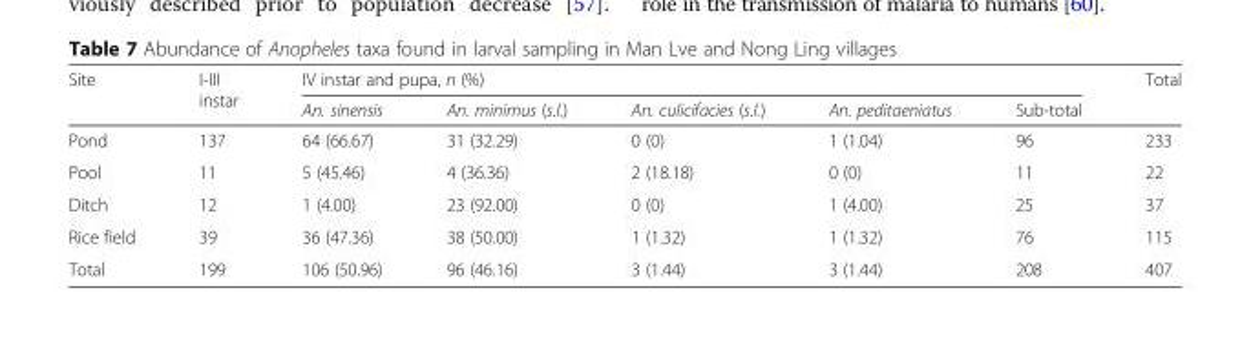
<table><thead><tr><td rowspan="2">Site</td><td rowspan="2">I-III instar</td><td colspan="5">IV instar and pupa, n (%)</td><td rowspan="2">Total</td></tr><tr><td>An. sinensis</td><td>An. minimus (s.l.)</td><td>An. culicifacies (s.l.)</td><td>An. peditaeniatus</td><td>Sub-total</td></tr></thead><tbody><tr><td>Pond</td><td>137</td><td>64 (66.67)</td><td>31 (32.29)</td><td>0 (0)</td><td>1 (1.04)</td><td>96</td><td>233</td></tr><tr><td>Pool</td><td>11</td><td>5 (45.46)</td><td>4 (36.36)</td><td>2 (18.18)</td><td>0 (0)</td><td>11</td><td>22</td></tr><tr><td>Ditch</td><td>12</td><td>1 (4.00)</td><td>23 (92.00)</td><td>0 (0)</td><td>1 (4.00)</td><td>25</td><td>37</td></tr><tr><td>Rice field</td><td>39</td><td>36 (47.36)</td><td>38 (50.00)</td><td>1 (1.32)</td><td>1 (1.32)</td><td>76</td><td>115</td></tr><tr><td>Total</td><td>199</td><td>106 (50.96)</td><td>96 (46.16)</td><td>3 (1.44)</td><td>3 (1.44)</td><td>208</td><td>407</td></tr></tbody></table>